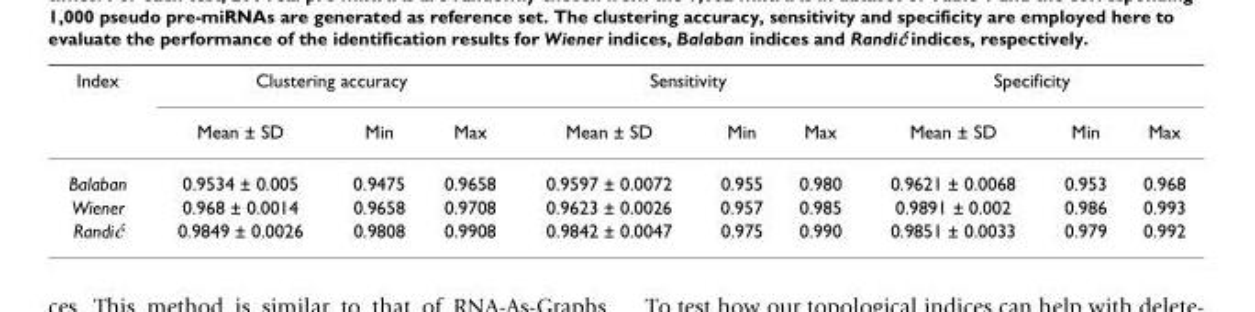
<table><thead><tr><td rowspan="2">Index</td><td colspan="3">Clustering accuracy</td><td colspan="3">Sensitivity</td><td colspan="3">Specificity</td></tr><tr><td>Mean ± SD</td><td>Min</td><td>Max</td><td>Mean ± SD</td><td>Min</td><td>Max</td><td>Mean ± SD</td><td>Min</td><td>Max</td></tr></thead><tbody><tr><td>Balaban</td><td>0.9534 ± 0.005</td><td>0.9475</td><td>0.9658</td><td>0.9597 ± 0.0072</td><td>0.955</td><td>0.980</td><td>0.9621 ± 0.0068</td><td>0.953</td><td>0.968</td></tr><tr><td>Wiener</td><td>0.968 ± 0.0014</td><td>0.9658</td><td>0.9708</td><td>0.9623 ± 0.0026</td><td>0.957</td><td>0.985</td><td>0.9891 ± 0.002</td><td>0.986</td><td>0.993</td></tr><tr><td>Randić</td><td>0.9849 ± 0.0026</td><td>0.9808</td><td>0.9908</td><td>0.9842 ± 0.0047</td><td>0.975</td><td>0.990</td><td>0.9851 ± 0.0033</td><td>0.979</td><td>0.992</td></tr></tbody></table>